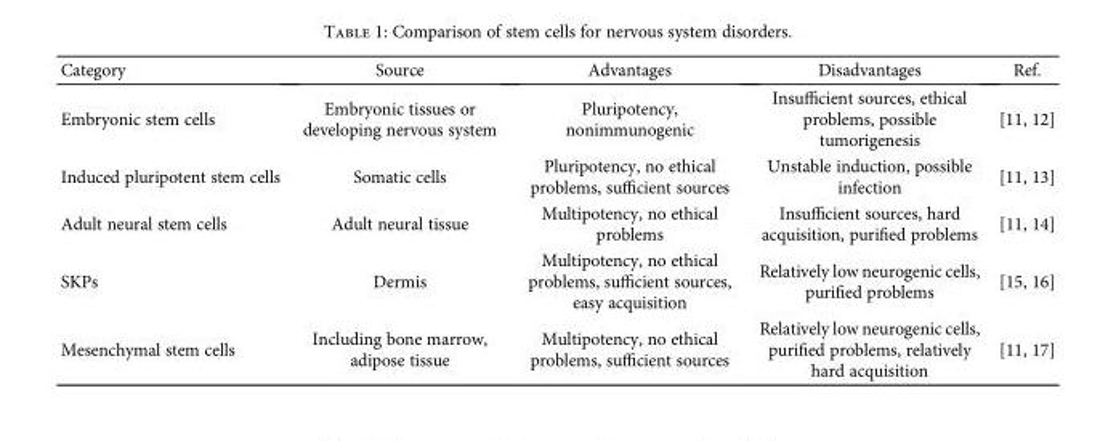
<table><thead><tr><td>Category</td><td>Source</td><td>Advantages</td><td>Disadvantages</td><td>Ref.</td></tr></thead><tbody><tr><td>Embryonic stem cells</td><td>Embryonic tissues or developing nervous system</td><td>Pluripotency, nonimmunogenic</td><td>Insufficient sources, ethical problems, possible tumorigenesis</td><td>[11, 12]</td></tr><tr><td>Induced pluripotent stem cells</td><td>Somatic cells</td><td>Pluripotency, no ethical problems, sufficient sources</td><td>Unstable induction, possible infection</td><td>[11, 13]</td></tr><tr><td>Adult neural stem cells</td><td>Adult neural tissue</td><td>Multipotency, no ethical problems</td><td>Insufficient sources, hard acquisition, purified problems</td><td>[11, 14]</td></tr><tr><td>SKPs</td><td>Dermis</td><td>Multipotency, no ethical problems, sufficient sources, easy acquisition</td><td>Relatively low neurogenic cells, purified problems</td><td>[15, 16]</td></tr><tr><td>Mesenchymal stem cells</td><td>Including bone marrow, adipose tissue</td><td>Multipotency, no ethical problems, sufficient sources</td><td>Relatively low neurogenic cells, purified problems, relatively hard acquisition</td><td>[11, 17]</td></tr></tbody></table>